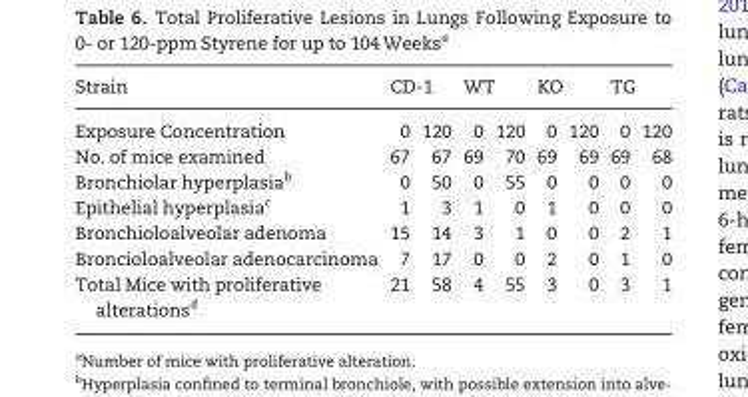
<table><thead><tr><td rowspan="2">Strain Exposure Concentration</td><td colspan="2">CD-1</td><td colspan="2">WT</td><td colspan="2">KO</td><td colspan="2">TG</td></tr><tr><td>0</td><td>120</td><td>0</td><td>120</td><td>0</td><td>120</td><td>0</td><td>120</td></tr></thead><tbody><tr><td>No. of mice examined</td><td>67</td><td>67</td><td>69</td><td>70</td><td>69</td><td>69</td><td>69</td><td>68</td></tr><tr><td>Bronchiolar hyperplasia<sup>b</sup></td><td>0</td><td>50</td><td>0</td><td>55</td><td>0</td><td>0</td><td>0</td><td>0</td></tr><tr><td>Epithelial hyperplasia<sup>c</sup></td><td>1</td><td>3</td><td>1</td><td>0</td><td>1</td><td>0</td><td>0</td><td>0</td></tr><tr><td>Bronchioloalveolar adenoma</td><td>15</td><td>14</td><td>3</td><td>1</td><td>0</td><td>0</td><td>2</td><td>1</td></tr><tr><td>Broncioloalveolar adenocarcinoma</td><td>7</td><td>17</td><td>0</td><td>0</td><td>2</td><td>0</td><td>1</td><td>0</td></tr><tr><td>Total Mice with proliferative alterations<sup>d</sup></td><td>21</td><td>58</td><td>4</td><td>55</td><td>3</td><td>0</td><td>3</td><td>1</td></tr></tbody></table>